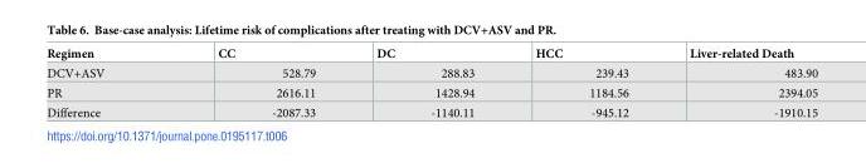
<table><thead><tr><td>Regimen</td><td>CC</td><td>DC</td><td>HCC</td><td>Liver-related Death</td></tr></thead><tbody><tr><td>DCV+ASV</td><td>528.79</td><td>288.83</td><td>239.43</td><td>483.90</td></tr><tr><td>PR</td><td>2616.11</td><td>1428.94</td><td>1184.56</td><td>2394.05</td></tr><tr><td>Difference</td><td>-2087.33</td><td>-1140.11</td><td>-945.12</td><td>-1910.15</td></tr></tbody></table>